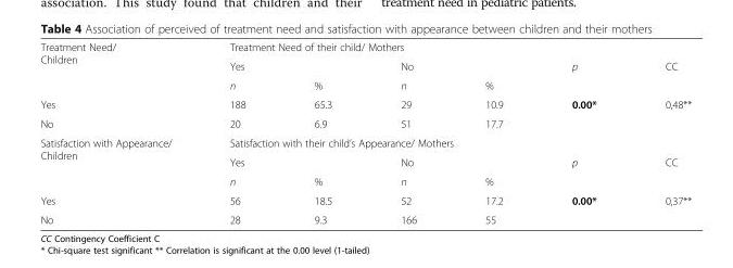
<table><tbody><tr><td rowspan="3">Treatment Need/ Children</td><td colspan="6">Treatment Need of their child/ Mothers</td></tr><tr><td colspan="2">Yes</td><td colspan="2">No</td><td>p</td><td>CC</td></tr><tr><td>n</td><td>%</td><td>n</td><td>%</td><td></td><td></td></tr><tr><td>Yes</td><td>188</td><td>65.3</td><td>29</td><td>10.9</td><td>0.00*</td><td>0,48**</td></tr><tr><td>No</td><td>20</td><td>6.9</td><td>51</td><td>17.7</td><td></td><td></td></tr><tr><td rowspan="3">Satisfaction with Appearance/ Children</td><td colspan="6">Satisfaction with their child’s Appearance/ Mothers</td></tr><tr><td colspan="2">Yes</td><td colspan="2">No</td><td>p</td><td>CC</td></tr><tr><td>n</td><td>%</td><td>n</td><td>%</td><td></td><td></td></tr><tr><td>Yes</td><td>56</td><td>18.5</td><td>52</td><td>17.2</td><td>0.00*</td><td>0,37**</td></tr><tr><td>No</td><td>28</td><td>9.3</td><td>166</td><td>55</td><td></td><td></td></tr></tbody></table>